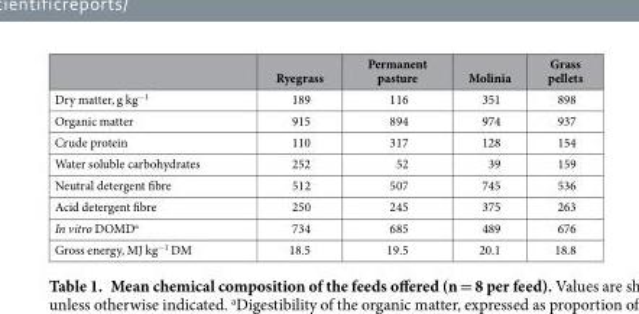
<table><thead><tr><td></td><td>Ryegrass</td><td>Permanent pasture</td><td>Molinia</td><td>Grass pellets</td></tr></thead><tbody><tr><td>Dry matter, g kg<sup>−1</sup></td><td>189</td><td>116</td><td>351</td><td>898</td></tr><tr><td>Organic matter</td><td>915</td><td>894</td><td>974</td><td>937</td></tr><tr><td>Crude protein</td><td>110</td><td>317</td><td>128</td><td>154</td></tr><tr><td>Water soluble carbohydrates</td><td>252</td><td>52</td><td>39</td><td>159</td></tr><tr><td>Neutral detergent fibre</td><td>512</td><td>507</td><td>745</td><td>536</td></tr><tr><td>Acid detergent fibre</td><td>250</td><td>245</td><td>375</td><td>263</td></tr><tr><td>In vitro DOMD<sup>a</sup></td><td>734</td><td>685</td><td>489</td><td>676</td></tr><tr><td>Gross energy, MJ kg<sup>−1</sup> DM</td><td>18.5</td><td>19.5</td><td>20.1</td><td>18.8</td></tr></tbody></table>